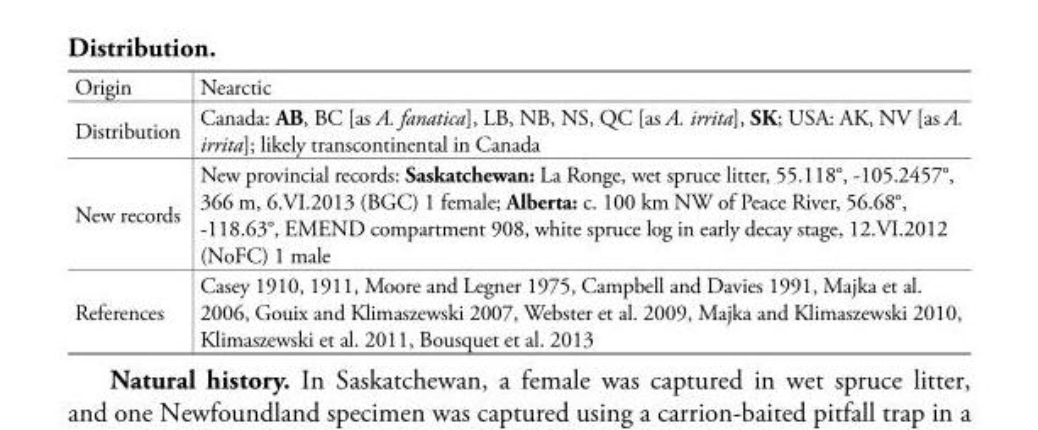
<table><tbody><tr><td>Origin</td><td>Nearctic</td></tr><tr><td>Distribution</td><td>Canada: AB, BC [as A. fanatica], LB, NB, NS, QC [as A. irrita], SK; USA: AK, NV [as A. irrita]; likely transcontinental in Canada</td></tr><tr><td>New records</td><td>New provincial records: Saskatchewan: La Ronge, wet spruce litter, 55.118°, -105.2457°, 366 m, 6.VI.2013 (BGC) 1 female; Alberta: c. 100 km NW of Peace River, 56.68°, -118.63°, EMEND compartment 908, white spruce log in early decay stage, 12.VI.2012 (NoFC) 1 male</td></tr><tr><td>References</td><td>Casey 1910, 1911, Moore and Legner 1975, Campbell and Davies 1991, Majka et al. 2006, Gouix and Klimaszewski 2007, Webster et al. 2009, Majka and Klimaszewski 2010, Klimaszewski et al. 2011, Bousquet et al. 2013</td></tr></tbody></table>